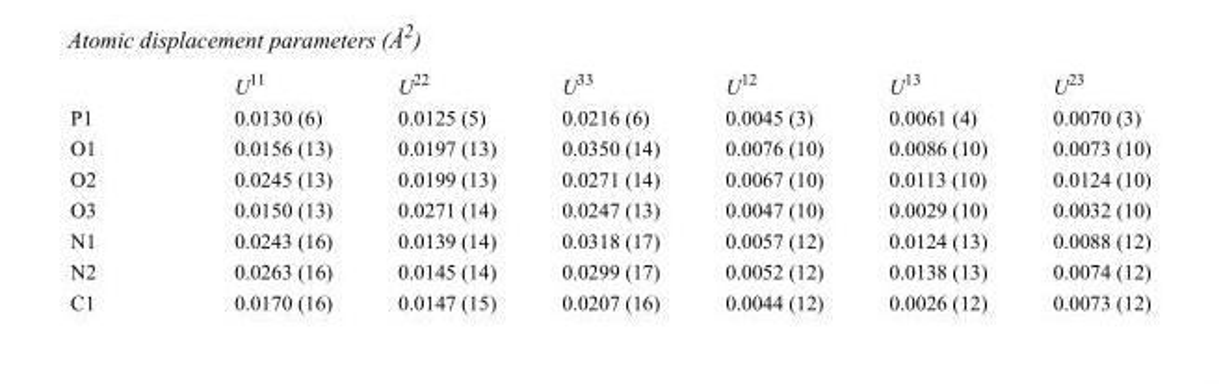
<table><thead><tr><td></td><td>U<sup>11</sup></td><td>U<sup>22</sup></td><td>U<sup>33</sup></td><td>U<sup>12</sup></td><td>U<sup>13</sup></td><td>U<sup>23</sup></td></tr></thead><tbody><tr><td>P1</td><td>0.0130 (6)</td><td>0.0125 (5)</td><td>0.0216 (6)</td><td>0.0045 (3)</td><td>0.0061 (4)</td><td>0.0070 (3)</td></tr><tr><td>O1</td><td>0.0156 (13)</td><td>0.0197 (13)</td><td>0.0350 (14)</td><td>0.0076 (10)</td><td>0.0086 (10)</td><td>0.0073 (10)</td></tr><tr><td>O2</td><td>0.0245 (13)</td><td>0.0199 (13)</td><td>0.0271 (14)</td><td>0.0067 (10)</td><td>0.0113 (10)</td><td>0.0124 (10)</td></tr><tr><td>O3</td><td>0.0150 (13)</td><td>0.0271 (14)</td><td>0.0247 (13)</td><td>0.0047 (10)</td><td>0.0029 (10)</td><td>0.0032 (10)</td></tr><tr><td>N1</td><td>0.0243 (16)</td><td>0.0139 (14)</td><td>0.0318 (17)</td><td>0.0057 (12)</td><td>0.0124 (13)</td><td>0.0088 (12)</td></tr><tr><td>N2</td><td>0.0263 (16)</td><td>0.0145 (14)</td><td>0.0299 (17)</td><td>0.0052 (12)</td><td>0.0138 (13)</td><td>0.0074 (12)</td></tr><tr><td>C1</td><td>0.0170 (16)</td><td>0.0147 (15)</td><td>0.0207 (16)</td><td>0.0044 (12)</td><td>0.0026 (12)</td><td>0.0073 (12)</td></tr></tbody></table>